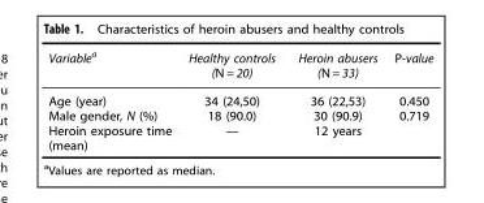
<table><thead><tr><td>Variable<sup>a</sup></td><td>Healthy controls (N = 20)</td><td>Heroin abusers (N = 33)</td><td>P-value</td></tr></thead><tbody><tr><td>Age (year)</td><td>34 (24,50)</td><td>36 (22,53)</td><td>0.450</td></tr><tr><td>Male gender, N (%)</td><td>18 (90.0)</td><td>30 (90.9)</td><td>0.719</td></tr><tr><td>Heroin exposure time (mean)</td><td>—</td><td>12 years</td><td></td></tr></tbody></table>